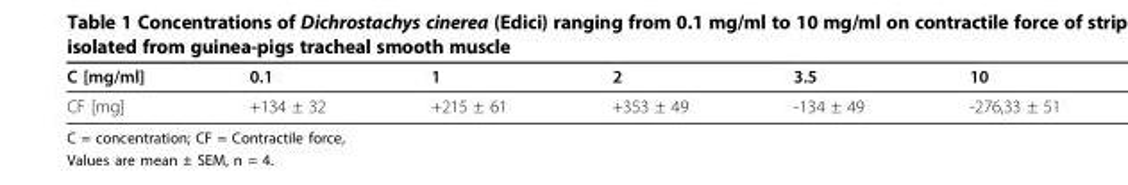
<table><thead><tr><td>C [mg/ml]</td><td>0.1</td><td>1</td><td>2</td><td>3.5</td><td>10</td></tr></thead><tbody><tr><td>CF [mg]</td><td>+134 ± 32</td><td>+215 ± 61</td><td>+353 ± 49</td><td>-134 ± 49</td><td>-276,33 ± 51</td></tr></tbody></table>